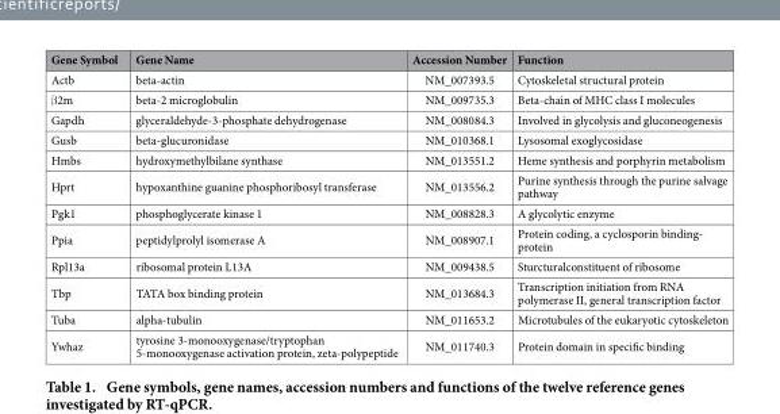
<table><thead><tr><td>Gene Symbol</td><td>Gene Name</td><td>Accession Number</td><td>Function</td></tr></thead><tbody><tr><td>Actb</td><td>beta-actin</td><td>NM_007393.5</td><td>Cytoskeletal structural protein</td></tr><tr><td>β 2m</td><td>beta-2 microglobulin</td><td>NM_009735.3</td><td>Beta-chain of MHC class I molecules</td></tr><tr><td>Gapdh</td><td>glyceraldehyde-3-phosphate dehydrogenase</td><td>NM_008084.3</td><td>Involved in glycolysis and gluconeogenesis</td></tr><tr><td>Gusb</td><td>beta-glucuronidase</td><td>NM_010368.1</td><td>Lysosomal exoglycosidase</td></tr><tr><td>Hmbs</td><td>hydroxymethylbilane synthase</td><td>NM_013551.2</td><td>Heme synthesis and porphyrin metabolism</td></tr><tr><td>Hprt</td><td>hypoxanthine guanine phosphoribosyl transferase</td><td>NM_013556.2</td><td>Purine synthesis through the purine salvage pathway</td></tr><tr><td>Pgk1</td><td>phosphoglycerate kinase 1</td><td>NM_008828.3</td><td>A glycolytic enzyme</td></tr><tr><td>Ppia</td><td>peptidylprolyl isomerase A</td><td>NM_008907.1</td><td>Protein coding, a cyclosporin binding- protein</td></tr><tr><td>Rpl13a</td><td>ribosomal protein L13A</td><td>NM_009438.5</td><td>Sturcturalconstituent of ribosome</td></tr><tr><td>Tbp</td><td>TATA box binding protein</td><td>NM_013684.3</td><td>Transcription initiation from RNA polymerase II, general transcription factor</td></tr><tr><td>Tuba</td><td>alpha-tubulin</td><td>NM_011653.2</td><td>Microtubules of the eukaryotic cytoskeleton</td></tr><tr><td>Ywhaz</td><td>tyrosine 3-monooxygenase/tryptophan 5-monooxygenase activation protein, zeta-polypeptide</td><td>NM_011740.3</td><td>Protein domain in specific binding</td></tr></tbody></table>